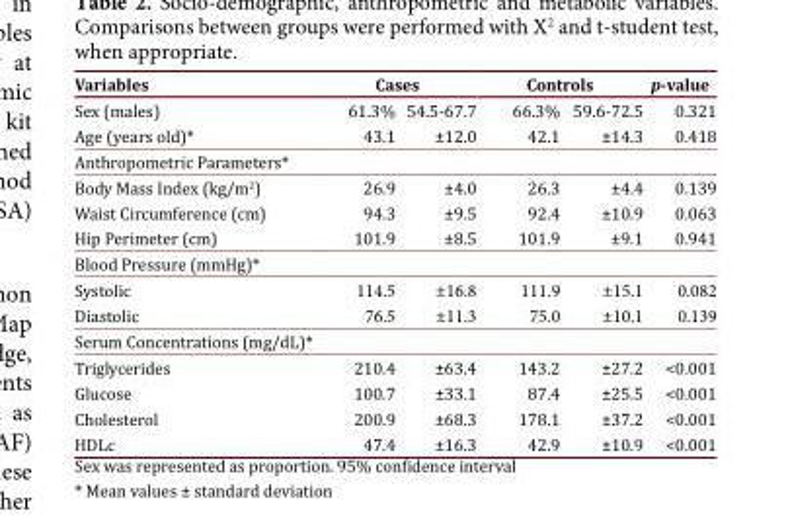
<table><thead><tr><td rowspan="2">Variables Sex (males)</td><td colspan="2">Cases</td><td colspan="2">Controls</td><td rowspan="2">p-value 0.321</td></tr><tr><td>61.3%</td><td>54.5-67.7</td><td>66.3%</td><td>59.6-72.5</td></tr></thead><tbody><tr><td>Age (years old)*</td><td>43.1</td><td>±12.0</td><td>42.1</td><td>±14.3</td><td>0.418</td></tr><tr><td colspan="6">Anthropometric Parameters*</td></tr><tr><td>Body Mass Index (kg/m<sup>2)</sup></td><td>26.9</td><td>±4.0</td><td>26.3</td><td>±4.4</td><td>0.139</td></tr><tr><td>Waist Circumference (cm)</td><td>94.3</td><td>±9.5</td><td>92.4</td><td>±10.9</td><td>0.063</td></tr><tr><td>Hip Perimeter (cm)</td><td>101.9</td><td>±8.5</td><td>101.9</td><td>±9.1</td><td>0.941</td></tr><tr><td colspan="6">Blood Pressure (mmHg)*</td></tr><tr><td>Systolic</td><td>114.5</td><td>±16.8</td><td>111.9</td><td>±15.1</td><td>0.082</td></tr><tr><td>Diastolic</td><td>76.5</td><td>±11.3</td><td>75.0</td><td>±10.1</td><td>0.139</td></tr><tr><td colspan="6">Serum Concentrations (mg/dL)*</td></tr><tr><td>Triglycerides</td><td>210.4</td><td>±63.4</td><td>143.2</td><td>±27.2</td><td>&lt;0.001</td></tr><tr><td>Glucose</td><td>100.7</td><td>±33.1</td><td>87.4</td><td>±25.5</td><td>&lt;0.001</td></tr><tr><td>Cholesterol</td><td>200.9</td><td>±68.3</td><td>178.1</td><td>±37.2</td><td>&lt;0.001</td></tr><tr><td>HDLc</td><td>47.4</td><td>±16.3</td><td>42.9</td><td>±10.9</td><td>&lt;0.001</td></tr></tbody></table>